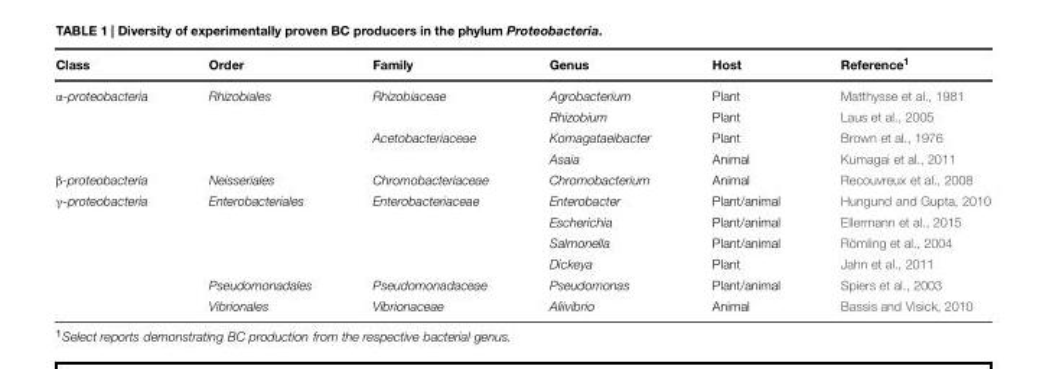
<table><thead><tr><td>Class</td><td>Order</td><td>Family</td><td>Genus</td><td>Host</td><td>Reference<sup>1</sup></td></tr></thead><tbody><tr><td rowspan="4">α-proteobacteria</td><td>Rhizobiales</td><td>Rhizobiaceae</td><td>Agrobacterium</td><td>Plant</td><td>Matthysse et al., 1981</td></tr><tr><td></td><td></td><td>Rhizobium</td><td>Plant</td><td>Laus et al., 2005</td></tr><tr><td></td><td>Acetobacteriaceae</td><td>Komagataeibacter</td><td>Plant</td><td>Brown et al., 1976</td></tr><tr><td></td><td></td><td>Asaia</td><td>Animal</td><td>Kumagai et al., 2011</td></tr><tr><td>β-proteobacteria</td><td>Neisseriales</td><td>Chromobacteriaceae</td><td>Chromobacterium</td><td>Animal</td><td>Recouvreux et al., 2008</td></tr><tr><td rowspan="6">γ-proteobacteria</td><td>Enterobacteriales</td><td>Enterobacteriaceae</td><td>Enterobacter</td><td>Plant/animal</td><td>Hungund and Gupta, 2010</td></tr><tr><td></td><td></td><td>Escherichia</td><td>Plant/animal</td><td>Ellermann et al., 2015</td></tr><tr><td></td><td></td><td>Salmonella</td><td>Plant/animal</td><td>Römling et al., 2004</td></tr><tr><td></td><td></td><td>Dickeya</td><td>Plant</td><td>Jahn et al., 2011</td></tr><tr><td>Pseudomonadales</td><td>Pseudomonadaceae</td><td>Pseudomonas</td><td>Plant/animal</td><td>Spiers et al., 2003</td></tr><tr><td>Vibrionales</td><td>Vibrionaceae</td><td>Aliivibrio</td><td>Animal</td><td>Bassis and Visick, 2010</td></tr></tbody></table>